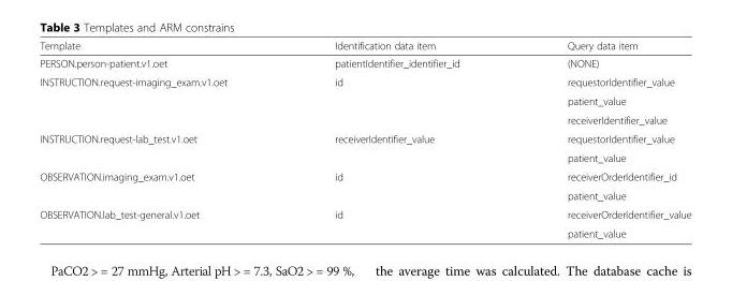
<table><thead><tr><td>Template</td><td>Identification data item</td><td>Query data item</td></tr></thead><tbody><tr><td>PERSON.person-patient.v1.oet</td><td>patientIdentifier_identifier_id</td><td>(NONE)</td></tr><tr><td rowspan="3">INSTRUCTION.request-imaging_exam.v1.oet</td><td rowspan="3">id</td><td>requestorIdentifier_value</td></tr><tr><td>patient_value</td></tr><tr><td>receiverIdentifier_value</td></tr><tr><td rowspan="2">INSTRUCTION.request-lab_test.v1.oet</td><td rowspan="2">receiverIdentifier_value</td><td>requestorIdentifier_value</td></tr><tr><td>patient_value</td></tr><tr><td rowspan="2">OBSERVATION.imaging_exam.v1.oet</td><td rowspan="2">id</td><td>receiverOrderIdentifier_id</td></tr><tr><td>patient_value</td></tr><tr><td rowspan="2">OBSERVATION.lab_test-general.v1.oet</td><td rowspan="2">id</td><td>receiverOrderIdentifier_value</td></tr><tr><td>patient_value</td></tr></tbody></table>